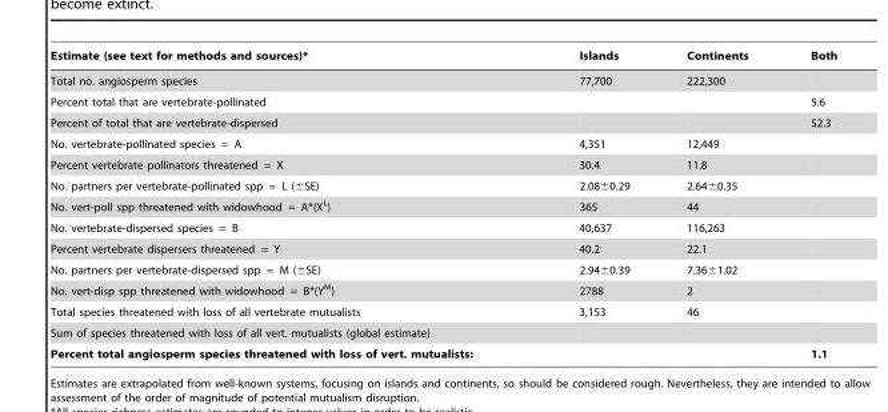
<table><thead><tr><td>Estimate (see text for methods and sources)*</td><td>Islands</td><td>Continents</td><td>Both</td></tr></thead><tbody><tr><td>Total no. angiosperm species</td><td>77,700</td><td>222,300</td><td></td></tr><tr><td>Percent total that are vertebrate-pollinated</td><td></td><td></td><td>5.6</td></tr><tr><td>Percent of total that are vertebrate-dispersed</td><td></td><td></td><td>52.3</td></tr><tr><td>No. vertebrate-pollinated species = A</td><td>4,351</td><td>12,449</td><td></td></tr><tr><td>Percent vertebrate pollinators threatened = X</td><td>30.4</td><td>11.8</td><td></td></tr><tr><td>No. partners per vertebrate-pollinated spp = L (±SE)</td><td>2.08±0.29</td><td>2.64±0.35</td><td></td></tr><tr><td>No. vert-poll spp threatened with widowhood = A*(X<sup>L</sup>)</td><td>365</td><td>44</td><td></td></tr><tr><td>No. vertebrate-dispersed species = B</td><td>40,637</td><td>116,263</td><td></td></tr><tr><td>Percent vertebrate dispersers threatened = Y</td><td>40.2</td><td>22.1</td><td></td></tr><tr><td>No. partners per vertebrate-dispersed spp = M (±SE)</td><td>2.94±0.39</td><td>7.36±1.02</td><td></td></tr><tr><td>No. vert-disp spp threatened with widowhood = B*(Y<sup>M</sup>)</td><td>2788</td><td>2</td><td></td></tr><tr><td>Total species threatened with loss of all vertebrate mutualists</td><td>3,153</td><td>46</td><td></td></tr><tr><td colspan="4">Sum of species threatened with loss of all vert. mutualists (global estimate)</td></tr><tr><td>Percent total angiosperm species threatened with loss of vert. mutualists:</td><td></td><td></td><td>1.1</td></tr></tbody></table>